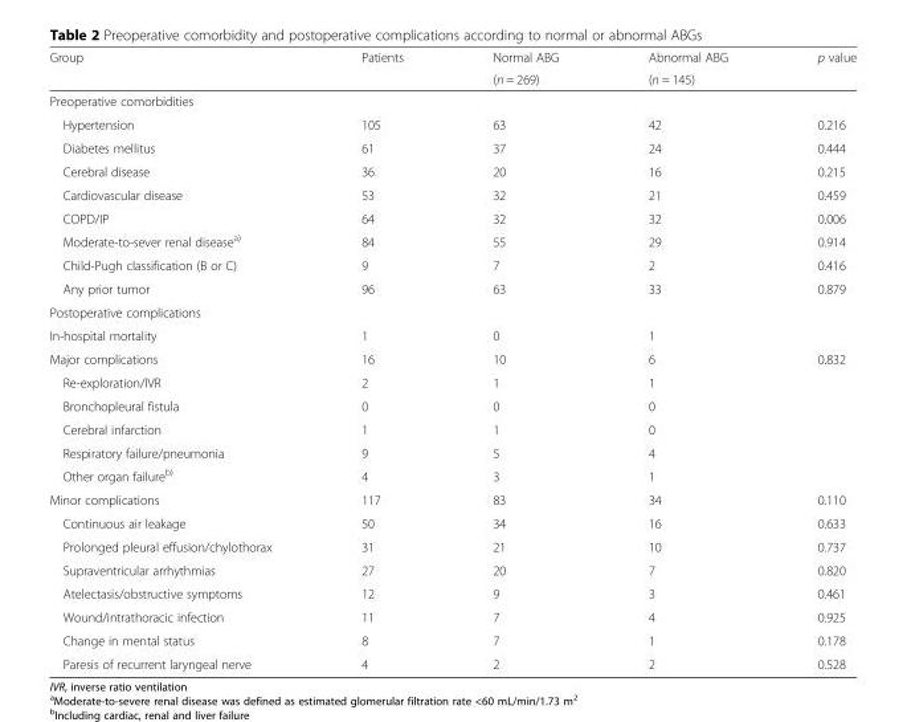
<table><thead><tr><td rowspan="2">Group</td><td rowspan="2">Patients</td><td rowspan="2">Normal ABG (n = 269)</td><td rowspan="2">Abnormal ABG (n = 145)</td><td rowspan="2">p value</td></tr><tr></tr></thead><tbody><tr><td colspan="5">Preoperative comorbidities</td></tr><tr><td>Hypertension</td><td>105</td><td>63</td><td>42</td><td>0.216</td></tr><tr><td>Diabetes mellitus</td><td>61</td><td>37</td><td>24</td><td>0.444</td></tr><tr><td>Cerebral disease</td><td>36</td><td>20</td><td>16</td><td>0.215</td></tr><tr><td>Cardiovascular disease</td><td>53</td><td>32</td><td>21</td><td>0.459</td></tr><tr><td>COPD/IP</td><td>64</td><td>32</td><td>32</td><td>0.006</td></tr><tr><td>Moderate-to-sever renal disease<sup>a)</sup></td><td>84</td><td>55</td><td>29</td><td>0.914</td></tr><tr><td>Child-Pugh classification (B or C)</td><td>9</td><td>7</td><td>2</td><td>0.416</td></tr><tr><td>Any prior tumor</td><td>96</td><td>63</td><td>33</td><td>0.879</td></tr><tr><td colspan="5">Postoperative complications</td></tr><tr><td>In-hospital mortality</td><td>1</td><td>0</td><td>1</td><td></td></tr><tr><td>Major complications</td><td>16</td><td>10</td><td>6</td><td>0.832</td></tr><tr><td>Re-exploration/IVR</td><td>2</td><td>1</td><td>1</td><td></td></tr><tr><td>Bronchopleural fistula</td><td>0</td><td>0</td><td>0</td><td></td></tr><tr><td>Cerebral infarction</td><td>1</td><td>1</td><td>0</td><td></td></tr><tr><td>Respiratory failure/pneumonia</td><td>9</td><td>5</td><td>4</td><td></td></tr><tr><td>Other organ failure<sup>b)</sup></td><td>4</td><td>3</td><td>1</td><td></td></tr><tr><td>Minor complications</td><td>117</td><td>83</td><td>34</td><td>0.110</td></tr><tr><td>Continuous air leakage</td><td>50</td><td>34</td><td>16</td><td>0.633</td></tr><tr><td>Prolonged pleural effusion/chylothorax</td><td>31</td><td>21</td><td>10</td><td>0.737</td></tr><tr><td>Supraventricular arrhythmias</td><td>27</td><td>20</td><td>7</td><td>0.820</td></tr><tr><td>Atelectasis/obstructive symptoms</td><td>12</td><td>9</td><td>3</td><td>0.461</td></tr><tr><td>Wound/intrathoracic infection</td><td>11</td><td>7</td><td>4</td><td>0.925</td></tr><tr><td>Change in mental status</td><td>8</td><td>7</td><td>1</td><td>0.178</td></tr><tr><td>Paresis of recurrent laryngeal nerve</td><td>4</td><td>2</td><td>2</td><td>0.528</td></tr></tbody></table>